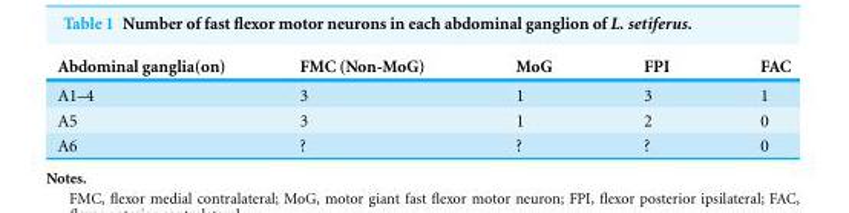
<table><thead><tr><td>Abdominal ganglia(on)</td><td>FMC (Non-MoG)</td><td>MoG</td><td>FPI</td><td>FAC</td></tr></thead><tbody><tr><td>A1–4</td><td>3</td><td>1</td><td>3</td><td>1</td></tr><tr><td>A5</td><td>3</td><td>1</td><td>2</td><td>0</td></tr><tr><td>A6</td><td>?</td><td>?</td><td>?</td><td>0</td></tr></tbody></table>